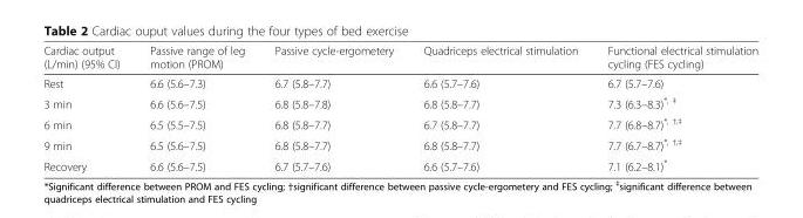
<table><thead><tr><td>Cardiac output (L/min) (95% CI)</td><td>Passive range of leg motion (PROM)</td><td>Passive cycle-ergometery</td><td>Quadriceps electrical stimulation</td><td>Functional electrical stimulation cycling (FES cycling)</td></tr></thead><tbody><tr><td>Rest</td><td>6.6 (5.6–7.3)</td><td>6.7 (5.8–7.7)</td><td>6.6 (5.7–7.6)</td><td>6.7 (5.7–7.6)</td></tr><tr><td>3 min</td><td>6.6 (5.6–7.5)</td><td>6.8 (5.8–7.8)</td><td>6.8 (5.8–7.7)</td><td>7.3 (6.3–8.3)<sup>*, ‡</sup></td></tr><tr><td>6 min</td><td>6.5 (5.5–7.5)</td><td>6.8 (5.8–7.7)</td><td>6.7 (5.8–7.7)</td><td>7.7 (6.8–8.7)<sup>*, †,‡</sup></td></tr><tr><td>9 min</td><td>6.5 (5.6–7.5)</td><td>6.8 (5.8–7.7)</td><td>6.8 (5.8–7.7)</td><td>7.7 (6.7–8.7)<sup>*, †,‡</sup></td></tr><tr><td>Recovery</td><td>6.6 (5.6–7.5)</td><td>6.7 (5.7–7.6)</td><td>6.6 (5.7–7.6)</td><td>7.1 (6.2–8.1)*</td></tr></tbody></table>